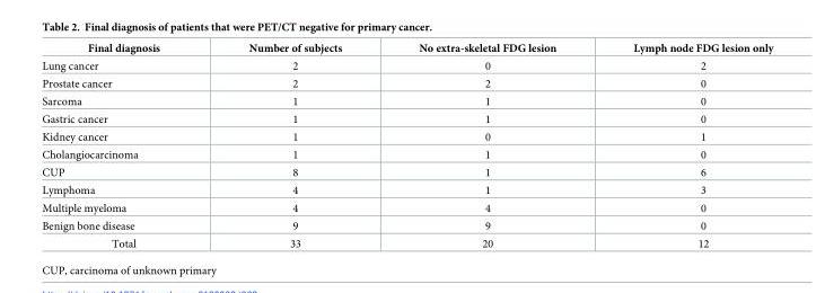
<table><thead><tr><td>Final diagnosis</td><td>Number of subjects</td><td>No extra-skeletal FDG lesion</td><td>Lymph node FDG lesion only</td></tr></thead><tbody><tr><td>Lung cancer</td><td>2</td><td>0</td><td>2</td></tr><tr><td>Prostate cancer</td><td>2</td><td>2</td><td>0</td></tr><tr><td>Sarcoma</td><td>1</td><td>1</td><td>0</td></tr><tr><td>Gastric cancer</td><td>1</td><td>1</td><td>0</td></tr><tr><td>Kidney cancer</td><td>1</td><td>0</td><td>1</td></tr><tr><td>Cholangiocarcinoma</td><td>1</td><td>1</td><td>0</td></tr><tr><td>CUP</td><td>8</td><td>1</td><td>6</td></tr><tr><td>Lymphoma</td><td>4</td><td>1</td><td>3</td></tr><tr><td>Multiple myeloma</td><td>4</td><td>4</td><td>0</td></tr><tr><td>Benign bone disease</td><td>9</td><td>9</td><td>0</td></tr><tr><td>Total</td><td>33</td><td>20</td><td>12</td></tr></tbody></table>